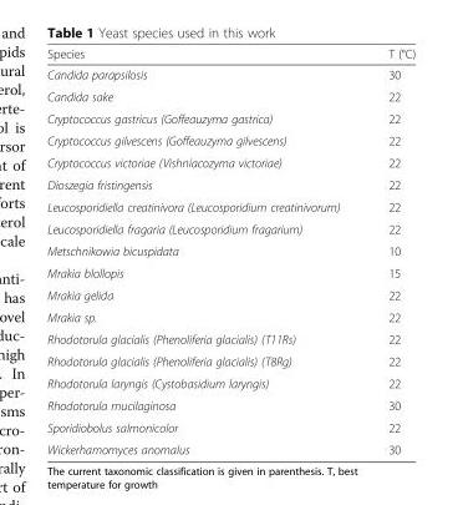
<table><thead><tr><td>Species</td><td>T (°C)</td></tr></thead><tbody><tr><td>Candida parapsilosis</td><td>30</td></tr><tr><td>Candida sake</td><td>22</td></tr><tr><td>Cryptococcus gastricus (Goffeauzyma gastrica)</td><td>22</td></tr><tr><td>Cryptococcus gilvescens (Goffeauzyma gilvescens)</td><td>22</td></tr><tr><td>Cryptococcus victoriae (Vishniacozyma victoriae)</td><td>22</td></tr><tr><td>Dioszegia fristingensis</td><td>22</td></tr><tr><td>Leucosporidiella creatinivora (Leucosporidium creatinivorum)</td><td>22</td></tr><tr><td>Leucosporidiella fragaria (Leucosporidium fragarium)</td><td>22</td></tr><tr><td>Metschnikowia bicuspidata</td><td>10</td></tr><tr><td>Mrakia blollopis</td><td>15</td></tr><tr><td>Mrakia gelida</td><td>22</td></tr><tr><td>Mrakia sp.</td><td>22</td></tr><tr><td>Rhodotorula glacialis (Phenoliferia glacialis) (T11Rs)</td><td>22</td></tr><tr><td>Rhodotorula glacialis (Phenoliferia glacialis) (T8Rg)</td><td>22</td></tr><tr><td>Rhodotorula laryngis (Cystobasidium laryngis)</td><td>22</td></tr><tr><td>Rhodotorula mucilaginosa</td><td>30</td></tr><tr><td>Sporidiobolus salmonicolor</td><td>22</td></tr><tr><td>Wickerhamomyces anomalus</td><td>30</td></tr></tbody></table>